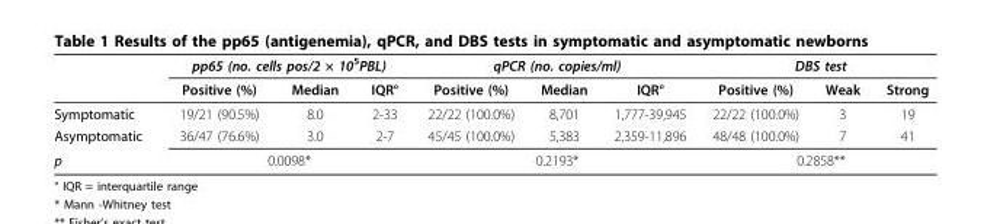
<table><thead><tr><td rowspan="2"></td><td colspan="3">pp65 (no. cells pos/2 × 10<sup>5</sup>PBL)</td><td colspan="3">qPCR (no. copies/ml)</td><td colspan="3">DBS test</td></tr><tr><td>Positive (%)</td><td>Median</td><td>IQR°</td><td>Positive (%)</td><td>Median</td><td>IQR°</td><td>Positive (%)</td><td>Weak</td><td>Strong</td></tr></thead><tbody><tr><td>Symptomatic</td><td>19/21 (90.5%)</td><td>8.0</td><td>2-33</td><td>22/22 (100.0%)</td><td>8,701</td><td>1,777-39,945</td><td>22/22 (100.0%)</td><td>3</td><td>19</td></tr><tr><td>Asymptomatic</td><td>36/47 (76.6%)</td><td>3.0</td><td>2-7</td><td>45/45 (100.0%)</td><td>5,383</td><td>2,359-11,896</td><td>48/48 (100.0%)</td><td>7</td><td>41</td></tr><tr><td>p</td><td colspan="3">0.0098*</td><td colspan="3">0.2193*</td><td colspan="3">0.2858**</td></tr></tbody></table>